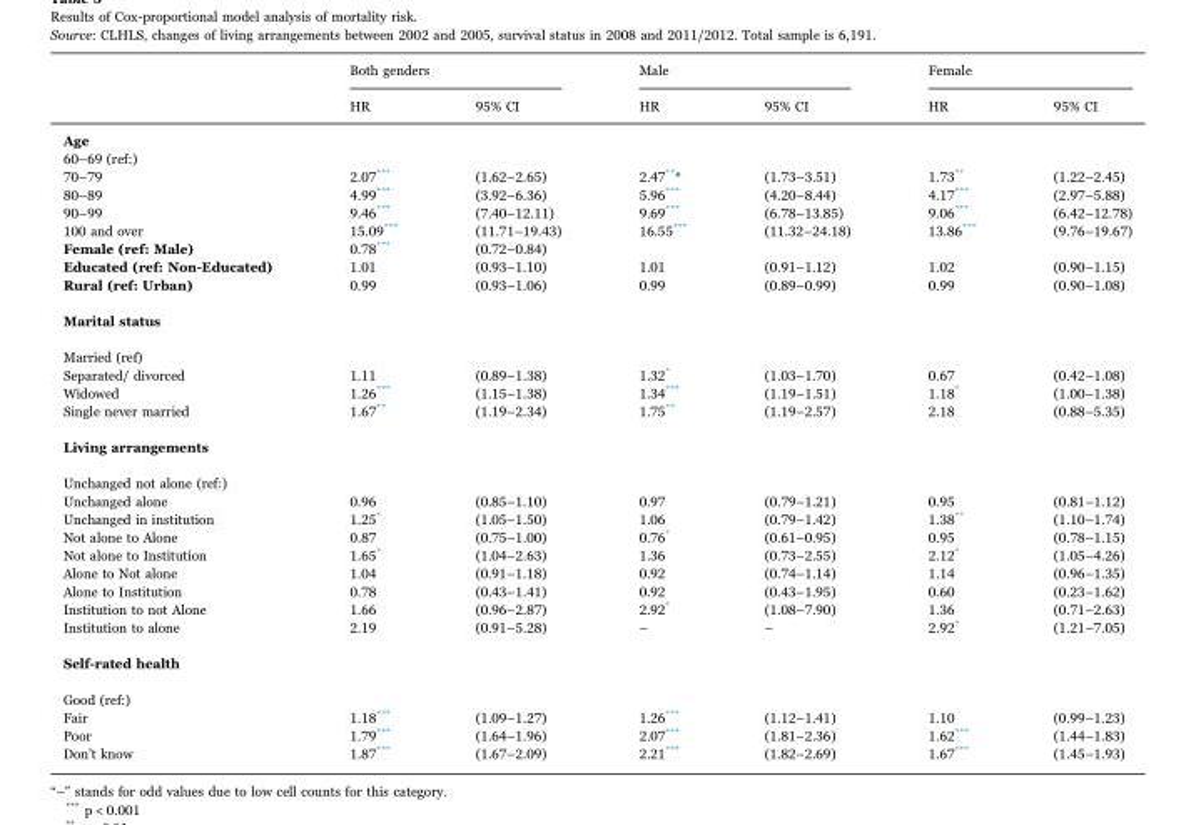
<table><thead><tr><td rowspan="2"></td><td colspan="2">Both genders</td><td colspan="2">Male</td><td colspan="2">Female</td></tr><tr><td>HR</td><td>95% CI</td><td>HR</td><td>95% CI</td><td>HR</td><td>95% CI</td></tr></thead><tbody><tr><td colspan="7">Age</td></tr><tr><td colspan="7">60–69 (ref:)</td></tr><tr><td>70–79</td><td>2.07***</td><td>(1.62–2.65)</td><td>2.47***</td><td>(1.73–3.51)</td><td>1.73**</td><td>(1.22–2.45)</td></tr><tr><td>80–89</td><td>4.99***</td><td>(3.92–6.36)</td><td>5.96***</td><td>(4.20–8.44)</td><td>4.17***</td><td>(2.97–5.88)</td></tr><tr><td>90–99</td><td>9.46***</td><td>(7.40–12.11)</td><td>9.69***</td><td>(6.78–13.85)</td><td>9.06***</td><td>(6.42–12.78)</td></tr><tr><td>100 and over</td><td>15.09***</td><td>(11.71–19.43)</td><td>16.55***</td><td>(11.32–24.18)</td><td>13.86***</td><td>(9.76–19.67)</td></tr><tr><td>Female (ref: Male)</td><td>0.78***</td><td colspan="2">(0.72–0.84)</td><td></td><td></td><td></td></tr><tr><td>Educated (ref: Non-Educated)</td><td>1.01</td><td>(0.93–1.10)</td><td>1.01</td><td>(0.91–1.12)</td><td>1.02</td><td>(0.90–1.15)</td></tr><tr><td>Rural (ref: Urban)</td><td>0.99</td><td>(0.93–1.06)</td><td>0.99</td><td>(0.89–0.99)</td><td>0.99</td><td>(0.90–1.08)</td></tr><tr><td colspan="7">Marital status</td></tr><tr><td colspan="7">Married (ref)</td></tr><tr><td>Separated/ divorced</td><td>1.11</td><td>(0.89–1.38)</td><td>1.32*</td><td>(1.03–1.70)</td><td>0.67</td><td>(0.42–1.08)</td></tr><tr><td>Widowed</td><td>1.26***</td><td>(1.15–1.38)</td><td>1.34***</td><td>(1.19–1.51)</td><td>1.18*</td><td>(1.00–1.38)</td></tr><tr><td>Single never married</td><td>1.67**</td><td>(1.19–2.34)</td><td>1.75**</td><td>(1.19–2.57)</td><td>2.18</td><td>(0.88–5.35)</td></tr><tr><td colspan="7">Living arrangements</td></tr><tr><td colspan="7">Unchanged not alone (ref:)</td></tr><tr><td>Unchanged alone</td><td>0.96</td><td>(0.85–1.10)</td><td>0.97</td><td>(0.79–1.21)</td><td>0.95</td><td>(0.81–1.12)</td></tr><tr><td>Unchanged in institution</td><td>1.25*</td><td>(1.05–1.50)</td><td>1.06</td><td>(0.79–1.42)</td><td>1.38**</td><td>(1.10–1.74)</td></tr><tr><td>Not alone to Alone</td><td>0.87</td><td>(0.75–1.00)</td><td>0.76*</td><td>(0.61–0.95)</td><td>0.95</td><td>(0.78–1.15)</td></tr><tr><td>Not alone to Institution</td><td>1.65*</td><td>(1.04–2.63)</td><td>1.36</td><td>(0.73–2.55)</td><td>2.12*</td><td>(1.05–4.26)</td></tr><tr><td>Alone to Not alone</td><td>1.04</td><td>(0.91–1.18)</td><td>0.92</td><td>(0.74–1.14)</td><td>1.14</td><td>(0.96–1.35)</td></tr><tr><td>Alone to Institution</td><td>0.78</td><td>(0.43–1.41)</td><td>0.92</td><td>(0.43–1.95)</td><td>0.60</td><td>(0.23–1.62)</td></tr><tr><td>Institution to not Alone</td><td>1.66</td><td>(0.96–2.87)</td><td>2.92*</td><td>(1.08–7.90)</td><td>1.36</td><td>(0.71–2.63)</td></tr><tr><td>Institution to alone</td><td>2.19</td><td>(0.91–5.28)</td><td>–</td><td>–</td><td>2.92*</td><td>(1.21–7.05)</td></tr><tr><td colspan="7">Self-rated health</td></tr><tr><td colspan="7">Good (ref:)</td></tr><tr><td>Fair</td><td>1.18***</td><td>(1.09–1.27)</td><td>1.26***</td><td>(1.12–1.41)</td><td>1.10</td><td>(0.99–1.23)</td></tr><tr><td>Poor</td><td>1.79***</td><td>(1.64–1.96)</td><td>2.07***</td><td>(1.81–2.36)</td><td>1.62***</td><td>(1.44–1.83)</td></tr><tr><td>Don’t know</td><td>1.87***</td><td>(1.67–2.09)</td><td>2.21***</td><td>(1.82–2.69)</td><td>1.67***</td><td>(1.45–1.93)</td></tr></tbody></table>